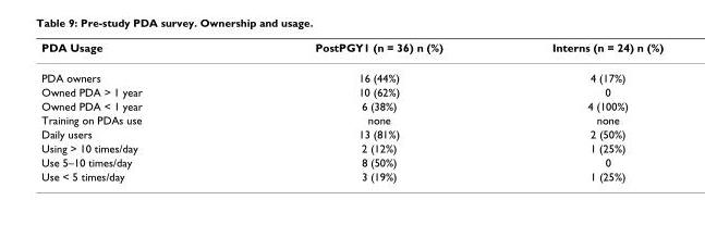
<table><thead><tr><td>PDA Usage</td><td>PostPGY1 (n = 36) n (%)</td><td>Interns (n = 24) n (%)</td></tr></thead><tbody><tr><td>PDA owners</td><td>16 (44%)</td><td>4 (17%)</td></tr><tr><td>Owned PDA &gt; 1 year</td><td>10 (62%)</td><td>0</td></tr><tr><td>Owned PDA &lt; 1 year</td><td>6 (38%)</td><td>4 (100%)</td></tr><tr><td>Training on PDAs use</td><td>none</td><td>none</td></tr><tr><td>Daily users</td><td>13 (81%)</td><td>2 (50%)</td></tr><tr><td>Using &gt; 10 times/day</td><td>2 (12%)</td><td>1 (25%)</td></tr><tr><td>Use 5–10 times/day</td><td>8 (50%)</td><td>0</td></tr><tr><td>Use &lt; 5 times/day</td><td>3 (19%)</td><td>1 (25%)</td></tr></tbody></table>